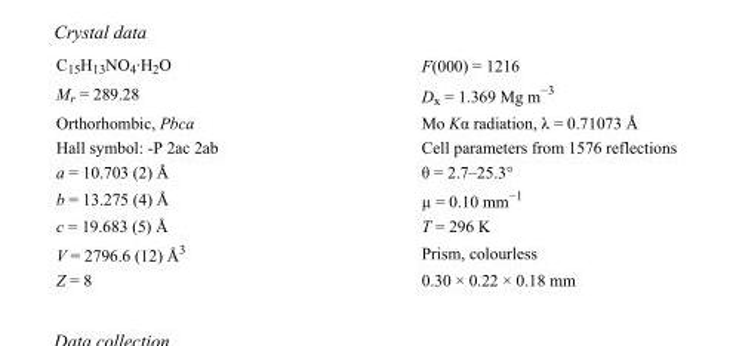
<table><tbody><tr><td>C<sub>15</sub>H<sub>13</sub>NO<sub>4</sub>·H<sub>2</sub>O</td><td>F(000) = 1216</td></tr><tr><td>M<sub>r</sub> = 289.28</td><td>D<sub>x</sub> = 1.369 Mg m<sup>−3</sup></td></tr><tr><td>Orthorhombic, Pbca</td><td>Mo Kα radiation, λ = 0.71073 Å</td></tr><tr><td>Hall symbol: -P 2ac 2ab</td><td>Cell parameters from 1576 reflections</td></tr><tr><td>a = 10.703 (2) Å</td><td>θ = 2.7–25.3°</td></tr><tr><td>b = 13.275 (4) Å</td><td>µ = 0.10 mm<sup>−1</sup></td></tr><tr><td>c = 19.683 (5) Å</td><td>T = 296 K</td></tr><tr><td>V = 2796.6 (12) Å<sup>3</sup></td><td>Prism, colourless</td></tr><tr><td>Z = 8</td><td>0.30 × 0.22 × 0.18 mm</td></tr></tbody></table>